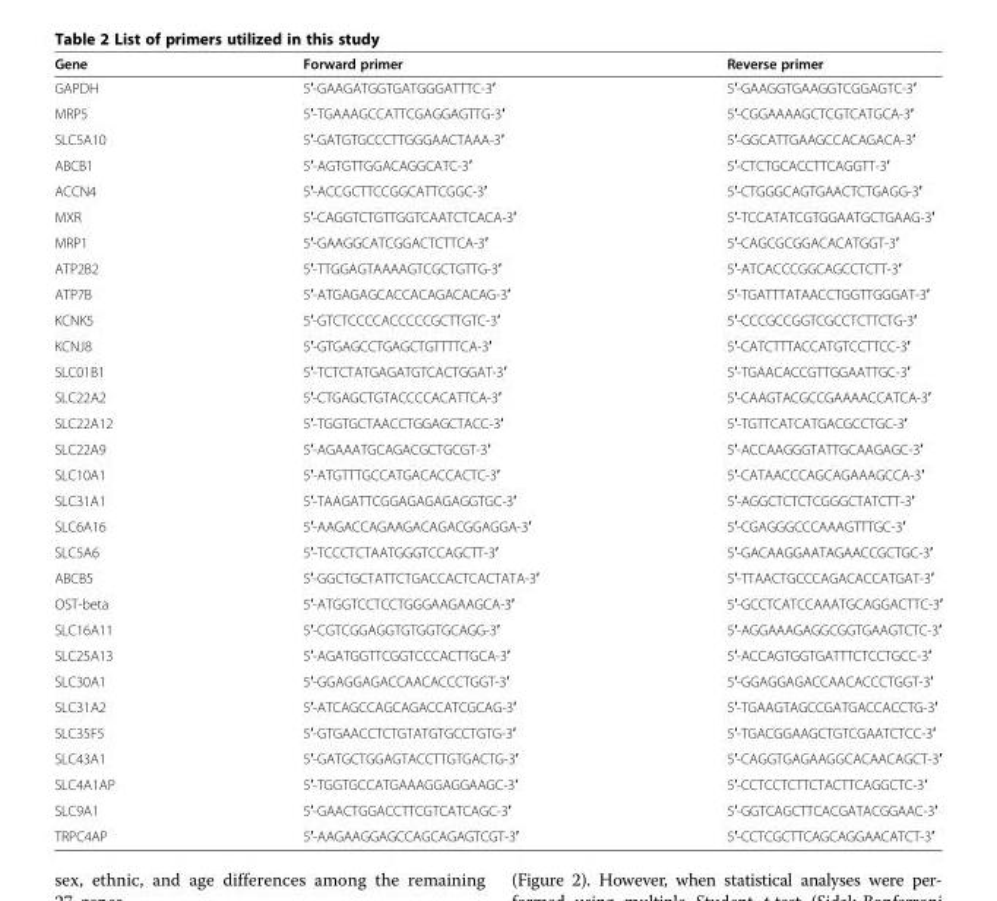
<table><thead><tr><td>Gene</td><td>Forward primer</td><td>Reverse primer</td></tr></thead><tbody><tr><td>GAPDH</td><td>5′-GAAGATGGTGATGGGATTTC-3′</td><td>5′-GAAGGTGAAGGTCGGAGTC-3′</td></tr><tr><td>MRP5</td><td>5′-TGAAAGCCATTCGAGGAGTTG-3′</td><td>5′-CGGAAAAGCTCGTCATGCA-3′</td></tr><tr><td>SLC5A10</td><td>5′-GATGTGCCCTTGGGAACTAAA-3′</td><td>5′-GGCATTGAAGCCACAGACA-3′</td></tr><tr><td>ABCB1</td><td>5′-AGTGTTGGACAGGCATC-3′</td><td>5′-CTCTGCACCTTCAGGTT-3′</td></tr><tr><td>ACCN4</td><td>5′-ACCGCTTCCGGCATTCGGC-3′</td><td>5′-CTGGGCAGTGAACTCTGAGG-3′</td></tr><tr><td>MXR</td><td>5′-CAGGTCTGTTGGTCAATCTCACA-3′</td><td>5′-TCCATATCGTGGAATGCTGAAG-3′</td></tr><tr><td>MRP1</td><td>5′-GAAGGCATCGGACTCTTCA-3′</td><td>5′-CAGCGCGGACACATGGT-3′</td></tr><tr><td>ATP2B2</td><td>5′-TTGGAGTAAAAGTCGCTGTTG-3′</td><td>5′-ATCACCCGGCAGCCTCTT-3′</td></tr><tr><td>ATP7B</td><td>5′-ATGAGAGCACCACAGACACAG-3′</td><td>5′-TGATTTATAACCTGGTTGGGAT-3′</td></tr><tr><td>KCNK5</td><td>5′-GTCTCCCCACCCCCGCTTGTC-3′</td><td>5′-CCCGCCGGTCGCCTCTTCTG-3′</td></tr><tr><td>KCNJ8</td><td>5′-GTGAGCCTGAGCTGTTTTCA-3′</td><td>5′-CATCTTTACCATGTCCTTCC-3′</td></tr><tr><td>SLC01B1</td><td>5′-TCTCTATGAGATGTCACTGGAT-3′</td><td>5′-TGAACACCGTTGGAATTGC-3′</td></tr><tr><td>SLC22A2</td><td>5′-CTGAGCTGTACCCCACATTCA-3′</td><td>5′-CAAGTACGCCGAAAACCATCA-3′</td></tr><tr><td>SLC22A12</td><td>5′-TGGTGCTAACCTGGAGCTACC-3′</td><td>5′-TGTTCATCATGACGCCTGC-3′</td></tr><tr><td>SLC22A9</td><td>5′-AGAAATGCAGACGCTGCGT-3′</td><td>5′-ACCAAGGGTATTGCAAGAGC-3′</td></tr><tr><td>SLC10A1</td><td>5′-ATGTTTGCCATGACACCACTC-3′</td><td>5′-CATAACCCAGCAGAAAGCCA-3′</td></tr><tr><td>SLC31A1</td><td>5′-TAAGATTCGGAGAGAGAGGTGC-3′</td><td>5′-AGGCTCTCTCGGGCTATCTT-3′</td></tr><tr><td>SLC6A16</td><td>5′-AAGACCAGAAGACAGACGGAGGA-3′</td><td>5′-CGAGGGCCCAAAGTTTGC-3′</td></tr><tr><td>SLC5A6</td><td>5′-TCCCTCTAATGGGTCCAGCTT-3′</td><td>5′-GACAAGGAATAGAACCGCTGC-3′</td></tr><tr><td>ABCB5</td><td>5′-GGCTGCTATTCTGACCACTCACTATA-3′</td><td>5′-TTAACTGCCCAGACACCATGAT-3′</td></tr><tr><td>OST-beta</td><td>5′-ATGGTCCTCCTGGGAAGAAGCA-3′</td><td>5′-GCCTCATCCAAATGCAGGACTTC-3′</td></tr><tr><td>SLC16A11</td><td>5′-CGTCGGAGGTGTGGTGCAGG-3′</td><td>5′-AGGAAAGAGGCGGTGAAGTCTC-3′</td></tr><tr><td>SLC25A13</td><td>5′-AGATGGTTCGGTCCCACTTGCA-3′</td><td>5′-ACCAGTGGTGATTTCTCCTGCC-3′</td></tr><tr><td>SLC30A1</td><td>5′-GGAGGAGACCAACACCCTGGT-3′</td><td>5′-GGAGGAGACCAACACCCTGGT-3′</td></tr><tr><td>SLC31A2</td><td>5′-ATCAGCCAGCAGACCATCGCAG-3′</td><td>5′-TGAAGTAGCCGATGACCACCTG-3′</td></tr><tr><td>SLC35F5</td><td>5′-GTGAACCTCTGTATGTGCCTGTG-3′</td><td>5′-TGACGGAAGCTGTCGAATCTCC-3′</td></tr><tr><td>SLC43A1</td><td>5′-GATGCTGGAGTACCTTGTGACTG-3′</td><td>5′-CAGGTGAGAAGGCACAACAGCT-3′</td></tr><tr><td>SLC4A1AP</td><td>5′-TGGTGCCATGAAAGGAGGAAGC-3′</td><td>5′-CCTCCTCTTCTACTTCAGGCTC-3′</td></tr><tr><td>SLC9A1</td><td>5′-GAACTGGACCTTCGTCATCAGC-3′</td><td>5′-GGTCAGCTTCACGATACGGAAC-3′</td></tr><tr><td>TRPC4AP</td><td>5′-AAGAAGGAGCCAGCAGAGTCGT-3′</td><td>5′-CCTCGCTTCAGCAGGAACATCT-3′</td></tr></tbody></table>